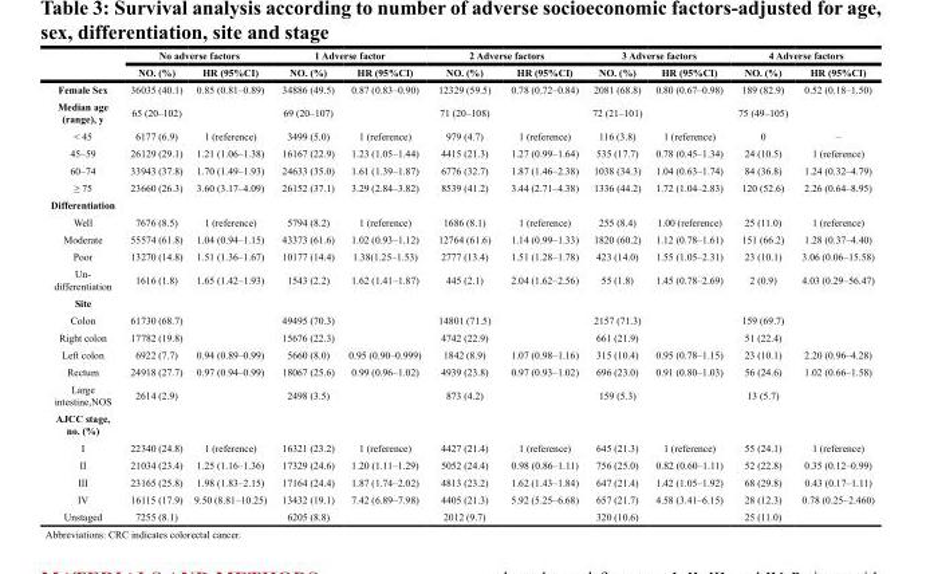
<table><thead><tr><td rowspan="2"></td><td colspan="2">No adverse factors</td><td colspan="2">1 Adverse factor</td><td colspan="2">2 Adverse factors</td><td colspan="2">3 Adverse factors</td><td colspan="2">4 Adverse factors</td></tr><tr><td>NO. (%)</td><td>HR (95%CI)</td><td>NO. (%)</td><td>HR (95%CI)</td><td>NO. (%)</td><td>HR (95%CI)</td><td>NO. (%)</td><td>HR (95%CI)</td><td>NO. (%)</td><td>HR (95%CI)</td></tr></thead><tbody><tr><td>Female Sex</td><td>36035 (40.1)</td><td>0.85 (0.81–0.89)</td><td>34886 (49.5)</td><td>0.87 (0.83–0.90)</td><td>12329 (59.5)</td><td>0.78 (0.72–0.84)</td><td>2081 (68.8)</td><td>0.80 (0.67–0.98)</td><td>189 (82.9)</td><td>0.52 (0.18–1.50)</td></tr><tr><td>Median age (range), y</td><td>65 (20–102)</td><td></td><td>69 (20–107)</td><td></td><td>71 (20–108)</td><td></td><td>72 (21–101)</td><td></td><td>75 (49–105)</td><td></td></tr><tr><td>&lt; 45</td><td>6177 (6.9)</td><td>1 (reference)</td><td>3499 (5.0)</td><td>1 (reference)</td><td>979 (4.7)</td><td>1 (reference)</td><td>116 (3.8)</td><td>1 (reference)</td><td>0</td><td>–</td></tr><tr><td>45–59</td><td>26129 (29.1)</td><td>1.21 (1.06–1.38)</td><td>16167 (22.9)</td><td>1.23 (1.05–1.44)</td><td>4415 (21.3)</td><td>1.27 (0.99–1.64)</td><td>535 (17.7)</td><td>0.78 (0.45–1.34)</td><td>24 (10.5)</td><td>1 (reference)</td></tr><tr><td>60–74</td><td>33943 (37.8)</td><td>1.70 (1.49–1.93)</td><td>24633 (35.0)</td><td>1.61 (1.39–1.87)</td><td>6776 (32.7)</td><td>1.87 (1.46–2.38)</td><td>1038 (34.3)</td><td>1.04 (0.63–1.74)</td><td>84 (36.8)</td><td>1.24 (0.32–4.79)</td></tr><tr><td>≥ 75</td><td>23660 (26.3)</td><td>3.60 (3.17–4.09)</td><td>26152 (37.1)</td><td>3.29 (2.84–3.82)</td><td>8539 (41.2)</td><td>3.44 (2.71–4.38)</td><td>1336 (44.2)</td><td>1.72 (1.04–2.83)</td><td>120 (52.6)</td><td>2.26 (0.64–8.95)</td></tr><tr><td colspan="11">Differentiation</td></tr><tr><td>Well</td><td>7676 (8.5)</td><td>1 (reference)</td><td>5794 (8.2)</td><td>1 (reference)</td><td>1686 (8.1)</td><td>1 (reference)</td><td>255 (8.4)</td><td>1.00 (reference)</td><td>25 (11.0)</td><td>1 (reference)</td></tr><tr><td>Moderate</td><td>55574 (61.8)</td><td>1.04 (0.94–1.15)</td><td>43373 (61.6)</td><td>1.02 (0.93–1.12)</td><td>12764 (61.6)</td><td>1.14 (0.99–1.33)</td><td>1820 (60.2)</td><td>1.12 (0.78–1.61)</td><td>151 (66.2)</td><td>1.28 (0.37–4.40)</td></tr><tr><td>Poor</td><td>13270 (14.8)</td><td>1.51 (1.36–1.67)</td><td>10177 (14.4)</td><td>1.38(1.25–1.53)</td><td>2777 (13.4)</td><td>1.51 (1.28–1.78)</td><td>423 (14.0)</td><td>1.55 (1.05–2.31)</td><td>23 (10.1)</td><td>3.06 (0.06–15.58)</td></tr><tr><td>Un- differentiation</td><td>1616 (1.8)</td><td>1.65 (1.42–1.93)</td><td>1543 (2.2)</td><td>1.62 (1.41–1.87)</td><td>445 (2.1)</td><td>2.04 (1.62–2.56)</td><td>55 (1.8)</td><td>1.45 (0.78–2.69)</td><td>2 (0.9)</td><td>4.03 (0.29–56.47)</td></tr><tr><td colspan="11">Site</td></tr><tr><td>Colon</td><td>61730 (68.7)</td><td></td><td>49495 (70.3)</td><td></td><td>14801 (71.5)</td><td></td><td>2157 (71.3)</td><td></td><td>159 (69.7)</td><td></td></tr><tr><td>Right colon</td><td>17782 (19.8)</td><td></td><td>15676 (22.3)</td><td></td><td>4742 (22.9)</td><td></td><td>661 (21.9)</td><td></td><td>51 (22.4)</td><td></td></tr><tr><td>Left colon</td><td>6922 (7.7)</td><td>0.94 (0.89–0.99)</td><td>5660 (8.0)</td><td>0.95 (0.90–0.999)</td><td>1842 (8.9)</td><td>1.07 (0.98–1.16)</td><td>315 (10.4)</td><td>0.95 (0.78–1.15)</td><td>23 (10.1)</td><td>2.20 (0.96–4.28)</td></tr><tr><td>Rectum</td><td>24918 (27.7)</td><td>0.97 (0.94–0.99)</td><td>18067 (25.6)</td><td>0.99 (0.96–1.02)</td><td>4939 (23.8)</td><td>0.97 (0.93–1.02)</td><td>696 (23.0)</td><td>0.91 (0.80–1.03)</td><td>56 (24.6)</td><td>1.02 (0.66–1.58)</td></tr><tr><td>Large intestine,NOS</td><td>2614 (2.9)</td><td></td><td>2498 (3.5)</td><td></td><td>873 (4.2)</td><td></td><td>159 (5.3)</td><td></td><td>13 (5.7)</td><td></td></tr><tr><td colspan="11">AJCC stage, no. (%)</td></tr><tr><td>I</td><td>22340 (24.8)</td><td>1 (reference)</td><td>16321 (23.2)</td><td>1 (reference)</td><td>4427 (21.4)</td><td>1 (reference)</td><td>645 (21.3)</td><td>1 (reference)</td><td>55 (24.1)</td><td>1 (reference)</td></tr><tr><td>II</td><td>21034 (23.4)</td><td>1.25 (1.16–1.36)</td><td>17329 (24.6)</td><td>1.20 (1.11–1.29)</td><td>5052 (24.4)</td><td>0.98 (0.86–1.11)</td><td>756 (25.0)</td><td>0.82 (0.60–1.11)</td><td>52 (22.8)</td><td>0.35 (0.12–0.99)</td></tr><tr><td>III</td><td>23165 (25.8)</td><td>1.98 (1.83–2.15)</td><td>17164 (24.4)</td><td>1.87 (1.74–2.02)</td><td>4813 (23.2)</td><td>1.62 (1.43–1.84)</td><td>647 (21.4)</td><td>1.42 (1.05–1.92)</td><td>68 (29.8)</td><td>0.43 (0.17–1.11)</td></tr><tr><td>IV</td><td>16115 (17.9)</td><td>9.50 (8.81–10.25)</td><td>13432 (19.1)</td><td>7.42 (6.89–7.98)</td><td>4405 (21.3)</td><td>5.92 (5.25–6.68)</td><td>657 (21.7)</td><td>4.58 (3.41–6.15)</td><td>28 (12.3)</td><td>0.78 (0.25–2.460)</td></tr><tr><td>Unstaged</td><td>7255 (8.1)</td><td></td><td>6205 (8.8)</td><td></td><td>2012 (9.7)</td><td></td><td>320 (10.6)</td><td></td><td>25 (11.0)</td><td></td></tr></tbody></table>